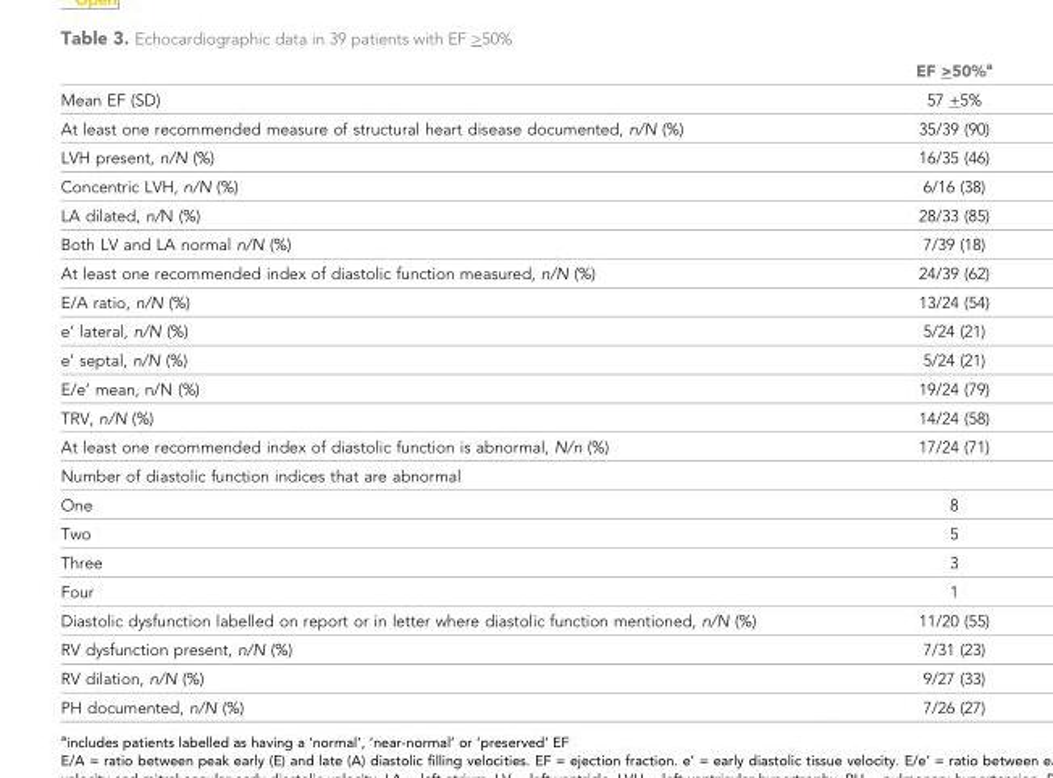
<table><thead><tr><td></td><td>EF &gt;50%<sup>a</sup></td></tr></thead><tbody><tr><td>Mean EF (SD)</td><td>57 +5%</td></tr><tr><td>At least one recommended measure of structural heart disease documented, n/N (%)</td><td>35/39 (90)</td></tr><tr><td>LVH present, n/N (%)</td><td>16/35 (46)</td></tr><tr><td>Concentric LVH, n/N (%)</td><td>6/16 (38)</td></tr><tr><td>LA dilated, n/N (%)</td><td>28/33 (85)</td></tr><tr><td>Both LV and LA normal n/N (%)</td><td>7/39 (18)</td></tr><tr><td>At least one recommended index of diastolic function measured, n/N (%)</td><td>24/39 (62)</td></tr><tr><td>E/A ratio, n/N (%)</td><td>13/24 (54)</td></tr><tr><td>e’ lateral, n/N (%)</td><td>5/24 (21)</td></tr><tr><td>e’ septal, n/N (%)</td><td>5/24 (21)</td></tr><tr><td>E/e’ mean, n/N (%)</td><td>19/24 (79)</td></tr><tr><td>TRV, n/N (%)</td><td>14/24 (58)</td></tr><tr><td>At least one recommended index of diastolic function is abnormal, N/n (%)</td><td>17/24 (71)</td></tr><tr><td colspan="2">Number of diastolic function indices that are abnormal</td></tr><tr><td>One</td><td>8</td></tr><tr><td>Two</td><td>5</td></tr><tr><td>Three</td><td>3</td></tr><tr><td>Four</td><td>1</td></tr><tr><td>Diastolic dysfunction labelled on report or in letter where diastolic function mentioned, n/N (%)</td><td>11/20 (55)</td></tr><tr><td>RV dysfunction present, n/N (%)</td><td>7/31 (23)</td></tr><tr><td>RV dilation, n/N (%)</td><td>9/27 (33)</td></tr><tr><td>PH documented, n/N (%)</td><td>7/26 (27)</td></tr></tbody></table>